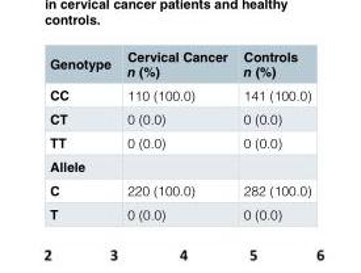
<table><thead><tr><td>Genotype</td><td>Cervical Cancer n (%)</td><td>Controls n (%)</td></tr></thead><tbody><tr><td>CC</td><td>110 (100.0)</td><td>141 (100.0)</td></tr><tr><td>CT</td><td>0 (0.0)</td><td>0 (0.0)</td></tr><tr><td>TT</td><td>0 (0.0)</td><td>0 (0.0)</td></tr><tr><td colspan="3">Allele</td></tr><tr><td>C</td><td>220 (100.0)</td><td>282 (100.0)</td></tr><tr><td>T</td><td>0 (0.0)</td><td>0 (0.0)</td></tr></tbody></table>